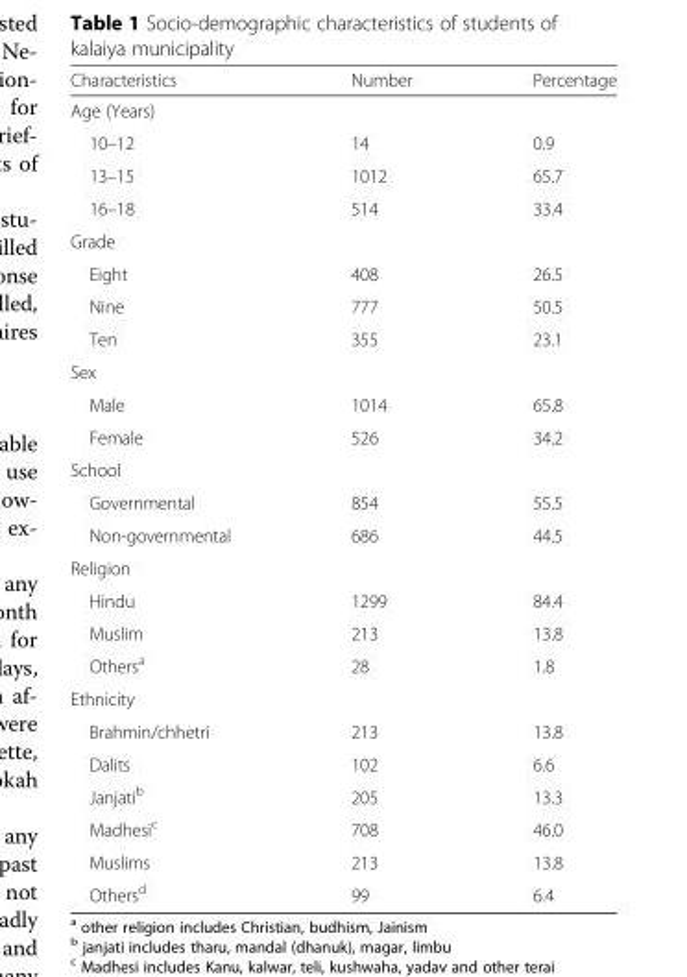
<table><thead><tr><td>Characteristics</td><td>Number</td><td>Percentage</td></tr></thead><tbody><tr><td colspan="3">Age (Years)</td></tr><tr><td>10–12</td><td>14</td><td>0.9</td></tr><tr><td>13–15</td><td>1012</td><td>65.7</td></tr><tr><td>16–18</td><td>514</td><td>33.4</td></tr><tr><td colspan="3">Grade</td></tr><tr><td>Eight</td><td>408</td><td>26.5</td></tr><tr><td>Nine</td><td>777</td><td>50.5</td></tr><tr><td>Ten</td><td>355</td><td>23.1</td></tr><tr><td colspan="3">Sex</td></tr><tr><td>Male</td><td>1014</td><td>65.8</td></tr><tr><td>Female</td><td>526</td><td>34.2</td></tr><tr><td colspan="3">School</td></tr><tr><td>Governmental</td><td>854</td><td>55.5</td></tr><tr><td>Non-governmental</td><td>686</td><td>44.5</td></tr><tr><td colspan="3">Religion</td></tr><tr><td>Hindu</td><td>1299</td><td>84.4</td></tr><tr><td>Muslim</td><td>213</td><td>13.8</td></tr><tr><td>Others<sup>a</sup></td><td>28</td><td>1.8</td></tr><tr><td colspan="3">Ethnicity</td></tr><tr><td>Brahmin/chhetri</td><td>213</td><td>13.8</td></tr><tr><td>Dalits</td><td>102</td><td>6.6</td></tr><tr><td>Janjati<sup>b</sup></td><td>205</td><td>13.3</td></tr><tr><td>Madhesi<sup>c</sup></td><td>708</td><td>46.0</td></tr><tr><td>Muslims</td><td>213</td><td>13.8</td></tr><tr><td>Others<sup>d</sup></td><td>99</td><td>6.4</td></tr></tbody></table>